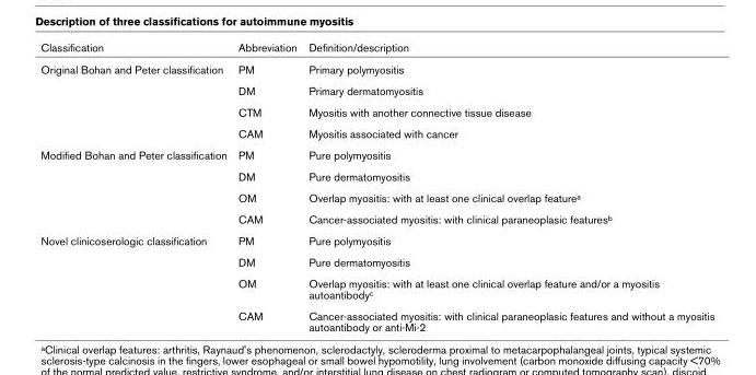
<table><thead><tr><td>Classification</td><td>Abbreviation</td><td>Definition/description</td></tr></thead><tbody><tr><td rowspan="4">Original Bohan and Peter classification</td><td>PM</td><td>Primary polymyositis</td></tr><tr><td>DM</td><td>Primary dermatomyositis</td></tr><tr><td>CTM</td><td>Myositis with another connective tissue disease</td></tr><tr><td>CAM</td><td>Myositis associated with cancer</td></tr><tr><td rowspan="4">Modified Bohan and Peter classification</td><td>PM</td><td>Pure polymyositis</td></tr><tr><td>DM</td><td>Pure dermatomyositis</td></tr><tr><td>OM</td><td>Overlap myositis: with at least one clinical overlap feature<sup>a</sup></td></tr><tr><td>CAM</td><td>Cancer-associated myositis: with clinical paraneoplasic features<sup>b</sup></td></tr><tr><td rowspan="4">Novel clinicoserologic classification</td><td>PM</td><td>Pure polymyositis</td></tr><tr><td>DM</td><td>Pure dermatomyositis</td></tr><tr><td>OM</td><td>Overlap myositis: with at least one clinical overlap feature and/or a myositis autoantibody<sup>c</sup></td></tr><tr><td>CAM</td><td>Cancer-associated myositis: with clinical paraneoplasic features and without a myositis autoantibody or anti-Mi-2</td></tr></tbody></table>